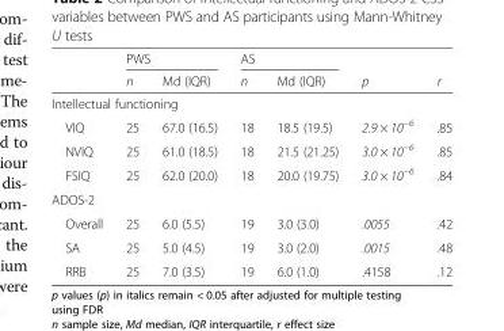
<table><thead><tr><td rowspan="2"></td><td colspan="2">PWS</td><td colspan="2">AS</td><td rowspan="2">p</td><td rowspan="2">r</td></tr><tr><td>n</td><td>Md (IQR)</td><td>n</td><td>Md (IQR)</td></tr></thead><tbody><tr><td colspan="7">Intellectual functioning</td></tr><tr><td>VIQ</td><td>25</td><td>67.0 (16.5)</td><td>18</td><td>18.5 (19.5)</td><td>2.9 × 10<sup>−6</sup></td><td>.85</td></tr><tr><td>NVIQ</td><td>25</td><td>61.0 (18.5)</td><td>18</td><td>21.5 (21.25)</td><td>3.0 × 10<sup>−6</sup></td><td>.85</td></tr><tr><td>FSIQ</td><td>25</td><td>62.0 (20.0)</td><td>18</td><td>20.0 (19.75)</td><td>3.0 × 10<sup>−6</sup></td><td>.84</td></tr><tr><td colspan="7">ADOS-2</td></tr><tr><td>Overall</td><td>25</td><td>6.0 (5.5)</td><td>19</td><td>3.0 (3.0)</td><td>.0055</td><td>.42</td></tr><tr><td>SA</td><td>25</td><td>5.0 (4.5)</td><td>19</td><td>3.0 (2.0)</td><td>.0015</td><td>.48</td></tr><tr><td>RRB</td><td>25</td><td>7.0 (3.5)</td><td>19</td><td>6.0 (1.0)</td><td>.4158</td><td>.12</td></tr></tbody></table>